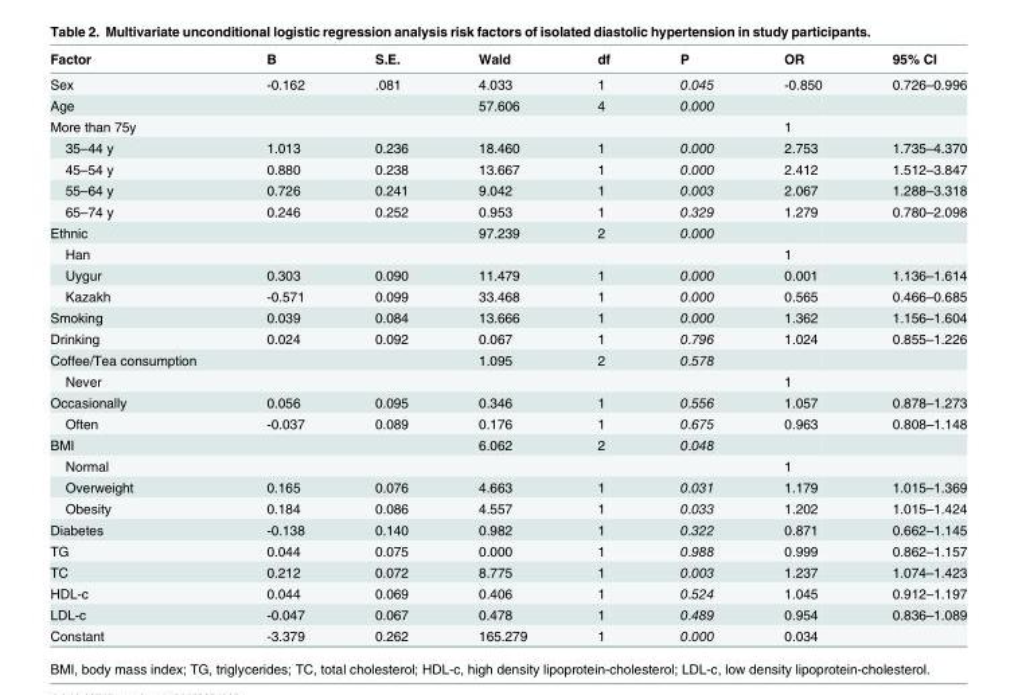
<table><thead><tr><td>Factor</td><td>B</td><td>S.E.</td><td>Wald</td><td>df</td><td>P</td><td>OR</td><td>95% CI</td></tr></thead><tbody><tr><td>Sex</td><td>-0.162</td><td>.081</td><td>4.033</td><td>1</td><td>0.045</td><td>-0.850</td><td>0.726–0.996</td></tr><tr><td>Age</td><td></td><td></td><td>57.606</td><td>4</td><td>0.000</td><td></td><td></td></tr><tr><td>More than 75y</td><td></td><td></td><td></td><td></td><td></td><td>1</td><td></td></tr><tr><td>35–44 y</td><td>1.013</td><td>0.236</td><td>18.460</td><td>1</td><td>0.000</td><td>2.753</td><td>1.735–4.370</td></tr><tr><td>45–54 y</td><td>0.880</td><td>0.238</td><td>13.667</td><td>1</td><td>0.000</td><td>2.412</td><td>1.512–3.847</td></tr><tr><td>55–64 y</td><td>0.726</td><td>0.241</td><td>9.042</td><td>1</td><td>0.003</td><td>2.067</td><td>1.288–3.318</td></tr><tr><td>65–74 y</td><td>0.246</td><td>0.252</td><td>0.953</td><td>1</td><td>0.329</td><td>1.279</td><td>0.780–2.098</td></tr><tr><td>Ethnic</td><td></td><td></td><td>97.239</td><td>2</td><td>0.000</td><td></td><td></td></tr><tr><td>Han</td><td></td><td></td><td></td><td></td><td></td><td>1</td><td></td></tr><tr><td>Uygur</td><td>0.303</td><td>0.090</td><td>11.479</td><td>1</td><td>0.000</td><td>0.001</td><td>1.136–1.614</td></tr><tr><td>Kazakh</td><td>-0.571</td><td>0.099</td><td>33.468</td><td>1</td><td>0.000</td><td>0.565</td><td>0.466–0.685</td></tr><tr><td>Smoking</td><td>0.039</td><td>0.084</td><td>13.666</td><td>1</td><td>0.000</td><td>1.362</td><td>1.156–1.604</td></tr><tr><td>Drinking</td><td>0.024</td><td>0.092</td><td>0.067</td><td>1</td><td>0.796</td><td>1.024</td><td>0.855–1.226</td></tr><tr><td>Coffee/Tea consumption</td><td></td><td></td><td>1.095</td><td>2</td><td>0.578</td><td></td><td></td></tr><tr><td>Never</td><td></td><td></td><td></td><td></td><td></td><td>1</td><td></td></tr><tr><td>Occasionally</td><td>0.056</td><td>0.095</td><td>0.346</td><td>1</td><td>0.556</td><td>1.057</td><td>0.878–1.273</td></tr><tr><td>Often</td><td>-0.037</td><td>0.089</td><td>0.176</td><td>1</td><td>0.675</td><td>0.963</td><td>0.808–1.148</td></tr><tr><td>BMI</td><td></td><td></td><td>6.062</td><td>2</td><td>0.048</td><td></td><td></td></tr><tr><td>Normal</td><td></td><td></td><td></td><td></td><td></td><td>1</td><td></td></tr><tr><td>Overweight</td><td>0.165</td><td>0.076</td><td>4.663</td><td>1</td><td>0.031</td><td>1.179</td><td>1.015–1.369</td></tr><tr><td>Obesity</td><td>0.184</td><td>0.086</td><td>4.557</td><td>1</td><td>0.033</td><td>1.202</td><td>1.015–1.424</td></tr><tr><td>Diabetes</td><td>-0.138</td><td>0.140</td><td>0.982</td><td>1</td><td>0.322</td><td>0.871</td><td>0.662–1.145</td></tr><tr><td>TG</td><td>0.044</td><td>0.075</td><td>0.000</td><td>1</td><td>0.988</td><td>0.999</td><td>0.862–1.157</td></tr><tr><td>TC</td><td>0.212</td><td>0.072</td><td>8.775</td><td>1</td><td>0.003</td><td>1.237</td><td>1.074–1.423</td></tr><tr><td>HDL-c</td><td>0.044</td><td>0.069</td><td>0.406</td><td>1</td><td>0.524</td><td>1.045</td><td>0.912–1.197</td></tr><tr><td>LDL-c</td><td>-0.047</td><td>0.067</td><td>0.478</td><td>1</td><td>0.489</td><td>0.954</td><td>0.836–1.089</td></tr><tr><td>Constant</td><td>-3.379</td><td>0.262</td><td>165.279</td><td>1</td><td>0.000</td><td>0.034</td><td></td></tr></tbody></table>